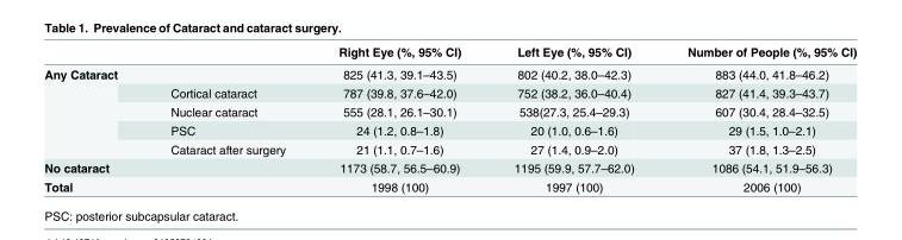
<table><thead><tr><td></td><td></td><td>Right Eye (%, 95% CI)</td><td>Left Eye (%, 95% CI)</td><td>Number of People (%, 95% CI)</td></tr></thead><tbody><tr><td rowspan="5">Any Cataract</td><td></td><td>825 (41.3, 39.1–43.5)</td><td>802 (40.2, 38.0–42.3)</td><td>883 (44.0, 41.8–46.2)</td></tr><tr><td>Cortical cataract</td><td>787 (39.8, 37.6–42.0)</td><td>752 (38.2, 36.0–40.4)</td><td>827 (41.4, 39.3–43.7)</td></tr><tr><td>Nuclear cataract</td><td>555 (28.1, 26.1–30.1)</td><td>538(27.3, 25.4–29.3)</td><td>607 (30.4, 28.4–32.5)</td></tr><tr><td>PSC</td><td>24 (1.2, 0.8–1.8)</td><td>20 (1.0, 0.6–1.6)</td><td>29 (1.5, 1.0–2.1)</td></tr><tr><td>Cataract after surgery</td><td>21 (1.1, 0.7–1.6)</td><td>27 (1.4, 0.9–2.0)</td><td>37 (1.8, 1.3–2.5)</td></tr><tr><td colspan="2">No cataract</td><td>1173 (58.7, 56.5–60.9)</td><td>1195 (59.9, 57.7–62.0)</td><td>1086 (54.1, 51.9–56.3)</td></tr><tr><td colspan="2">Total</td><td>1998 (100)</td><td>1997 (100)</td><td>2006 (100)</td></tr></tbody></table>